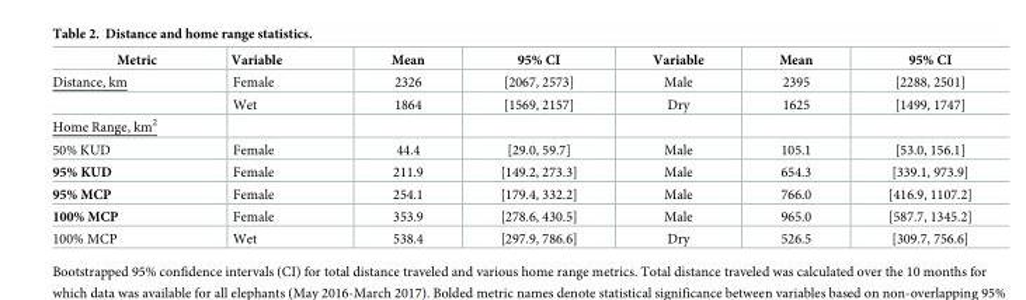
<table><thead><tr><td>Metric</td><td>Variable</td><td>Mean</td><td>95% CI</td><td>Variable</td><td>Mean</td><td>95% CI</td></tr></thead><tbody><tr><td rowspan="2">Distance, km</td><td>Female</td><td>2326</td><td>[2067, 2573]</td><td>Male</td><td>2395</td><td>[2288, 2501]</td></tr><tr><td>Wet</td><td>1864</td><td>[1569, 2157]</td><td>Dry</td><td>1625</td><td>[1499, 1747]</td></tr><tr><td colspan="7">Home Range, km<sup>2</sup></td></tr><tr><td>50% KUD</td><td>Female</td><td>44.4</td><td>[29.0, 59.7]</td><td>Male</td><td>105.1</td><td>[53.0, 156.1]</td></tr><tr><td>95% KUD</td><td>Female</td><td>211.9</td><td>[149.2, 273.3]</td><td>Male</td><td>654.3</td><td>[339.1, 973.9]</td></tr><tr><td>95% MCP</td><td>Female</td><td>254.1</td><td>[179.4, 332.2]</td><td>Male</td><td>766.0</td><td>[416.9, 1107.2]</td></tr><tr><td>100% MCP</td><td>Female</td><td>353.9</td><td>[278.6, 430.5]</td><td>Male</td><td>965.0</td><td>[587.7, 1345.2]</td></tr><tr><td>100% MCP</td><td>Wet</td><td>538.4</td><td>[297.9, 786.6]</td><td>Dry</td><td>526.5</td><td>[309.7, 756.6]</td></tr></tbody></table>